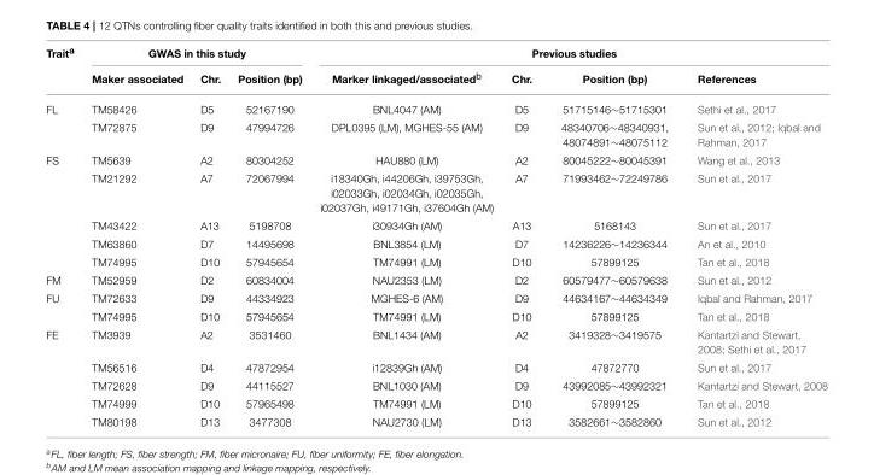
<table><thead><tr><td rowspan="2">Trait<sup>a</sup></td><td colspan="3">GWAS in this study</td><td colspan="4">Previous studies</td></tr><tr><td>Maker associated</td><td>Chr.</td><td>Position (bp)</td><td>Marker linkaged/associated<sup>b</sup></td><td>Chr.</td><td>Position (bp)</td><td>References</td></tr></thead><tbody><tr><td rowspan="2">FL</td><td>TM58426</td><td>D5</td><td>52167190</td><td>BNL4047 (AM)</td><td>D5</td><td>51715146∼51715301</td><td>Sethi et al., 2017</td></tr><tr><td>TM72875</td><td>D9</td><td>47994726</td><td>DPL0395 (LM), MGHES-55 (AM)</td><td>D9</td><td>48340706∼48340931, 48074891∼48075112</td><td>Sun et al., 2012; Iqbal and Rahman, 2017</td></tr><tr><td rowspan="5">FS</td><td>TM5639</td><td>A2</td><td>80304252</td><td>HAU880 (LM)</td><td>A2</td><td>80045222∼80045391</td><td>Wang et al., 2013</td></tr><tr><td>TM21292</td><td>A7</td><td>72067994</td><td>i18340Gh, i44206Gh, i39753Gh, i02033Gh, i02034Gh, i02035Gh, i02037Gh, i49171Gh, i37604Gh (AM)</td><td>A7</td><td>71993462∼72249786</td><td>Sun et al., 2017</td></tr><tr><td>TM43422</td><td>A13</td><td>5198708</td><td>i30934Gh (AM)</td><td>A13</td><td>5168143</td><td>Sun et al., 2017</td></tr><tr><td>TM63860</td><td>D7</td><td>14495698</td><td>BNL3854 (LM)</td><td>D7</td><td>14236226∼14236344</td><td>An et al., 2010</td></tr><tr><td>TM74995</td><td>D10</td><td>57945654</td><td>TM74991 (LM)</td><td>D10</td><td>57899125</td><td>Tan et al., 2018</td></tr><tr><td>FM</td><td>TM52959</td><td>D2</td><td>60834004</td><td>NAU2353 (LM)</td><td>D2</td><td>60579477∼60579638</td><td>Sun et al., 2012</td></tr><tr><td rowspan="2">FU</td><td>TM72633</td><td>D9</td><td>44334923</td><td>MGHES-6 (AM)</td><td>D9</td><td>44634167∼44634349</td><td>Iqbal and Rahman, 2017</td></tr><tr><td>TM74995</td><td>D10</td><td>57945654</td><td>TM74991 (LM)</td><td>D10</td><td>57899125</td><td>Tan et al., 2018</td></tr><tr><td rowspan="5">FE</td><td>TM3939</td><td>A2</td><td>3531460</td><td>BNL1434 (AM)</td><td>A2</td><td>3419328∼3419575</td><td>Kantartzi and Stewart, 2008; Sethi et al., 2017</td></tr><tr><td>TM56516</td><td>D4</td><td>47872954</td><td>i12839Gh (AM)</td><td>D4</td><td>47872770</td><td>Sun et al., 2017</td></tr><tr><td>TM72628</td><td>D9</td><td>44115527</td><td>BNL1030 (AM)</td><td>D9</td><td>43992085∼43992321</td><td>Kantartzi and Stewart, 2008</td></tr><tr><td>TM74999</td><td>D10</td><td>57965498</td><td>TM74991 (LM)</td><td>D10</td><td>57899125</td><td>Tan et al., 2018</td></tr><tr><td>TM80198</td><td>D13</td><td>3477308</td><td>NAU2730 (LM)</td><td>D13</td><td>3582661∼3582860</td><td>Sun et al., 2012</td></tr></tbody></table>